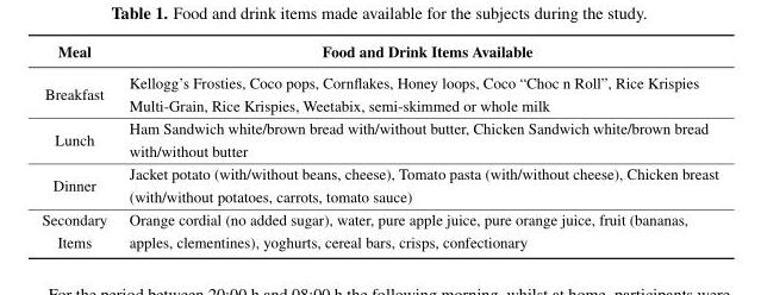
<table><thead><tr><td>Meal</td><td>Food and Drink Items Available</td></tr></thead><tbody><tr><td>Breakfast</td><td>Kellogg’s Frosties, Coco pops, Cornflakes, Honey loops, Coco “Choc n Roll”, Rice Krispies Multi-Grain, Rice Krispies, Weetabix, semi-skimmed or whole milk</td></tr><tr><td>Lunch</td><td>Ham Sandwich white/brown bread with/without butter, Chicken Sandwich white/brown bread with/without butter</td></tr><tr><td>Dinner</td><td>Jacket potato (with/without beans, cheese), Tomato pasta (with/without cheese), Chicken breast (with/without potatoes, carrots, tomato sauce)</td></tr><tr><td>Secondary Items</td><td>Orange cordial (no added sugar), water, pure apple juice, pure orange juice, fruit (bananas, apples, clementines), yoghurts, cereal bars, crisps, confectionary</td></tr></tbody></table>